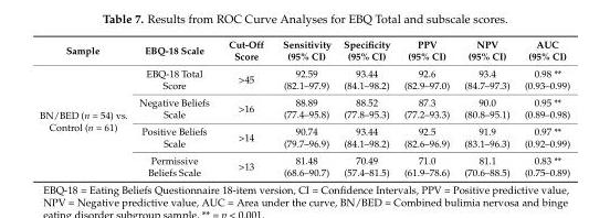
<table><thead><tr><td>Sample</td><td>EBQ-18 Scale</td><td>Cut-Off Score</td><td>Sensitivity (95% CI)</td><td>Specificity (95% CI)</td><td>PPV (95% CI)</td><td>NPV (95% CI)</td><td>AUC (95% CI)</td></tr></thead><tbody><tr><td rowspan="4">BN/BED (n = 54) vs. Control (n = 61)</td><td>EBQ-18 Total Score</td><td>&gt;45</td><td>92.59 (82.1–97.9)</td><td>93.44 (84.1–98.2)</td><td>92.6 (82.9–97.0)</td><td>93.4 (84.7–97.3)</td><td>0.98 ** (0.93–0.99)</td></tr><tr><td>Negative Beliefs Scale</td><td>&gt;16</td><td>88.89 (77.4–95.8)</td><td>88.52 (77.8–95.3)</td><td>87.3 (77.2–93.3)</td><td>90.0 (80.8–95.1)</td><td>0.95 ** (0.89–0.98)</td></tr><tr><td>Positive Beliefs Scale</td><td>&gt;14</td><td>90.74 (79.7–96.9)</td><td>93.44 (84.1–98.2)</td><td>92.5 (82.6–96.9)</td><td>91.9 (83.1–96.3)</td><td>0.97 ** (0.92–0.99)</td></tr><tr><td>Permissive Beliefs Scale</td><td>&gt;13</td><td>81.48 (68.6–90.7)</td><td>70.49 (57.4–81.5)</td><td>71.0 (61.9–78.6)</td><td>81.1 (70.6–88.5)</td><td>0.83 ** (0.75–0.89)</td></tr></tbody></table>